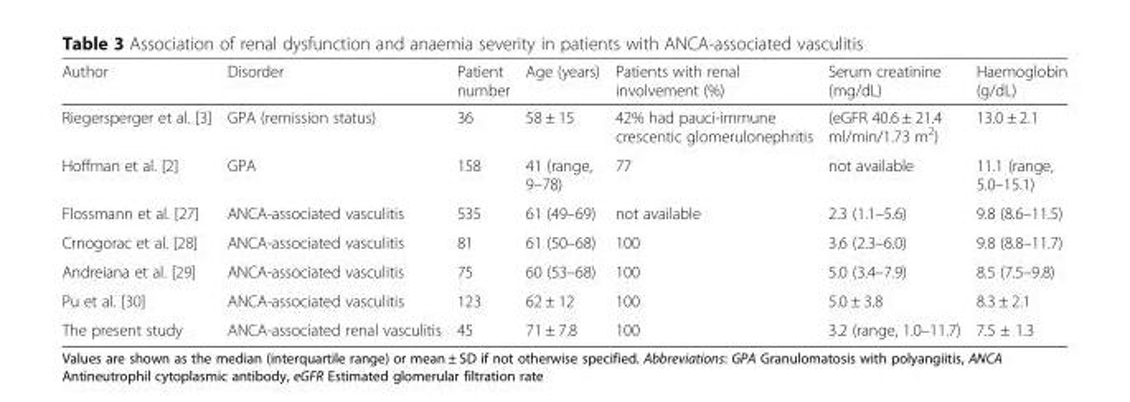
<table><thead><tr><td>Author</td><td>Disorder</td><td>Patient number</td><td>Age (years)</td><td>Patients with renal involvement (%)</td><td>Serum creatinine (mg/dL)</td><td>Haemoglobin (g/dL)</td></tr></thead><tbody><tr><td>Riegersperger et al. [3]</td><td>GPA (remission status)</td><td>36</td><td>58 ± 15</td><td>42% had pauci-immune crescentic glomerulonephritis</td><td>(eGFR 40.6 ± 21.4 ml/min/1.73 m<sup>2</sup>)</td><td>13.0 ± 2.1</td></tr><tr><td>Hoffman et al. [2]</td><td>GPA</td><td>158</td><td>41 (range, 9–78)</td><td>77</td><td>not available</td><td>11.1 (range, 5.0–15.1)</td></tr><tr><td>Flossmann et al. [27]</td><td>ANCA-associated vasculitis</td><td>535</td><td>61 (49–69)</td><td>not available</td><td>2.3 (1.1–5.6)</td><td>9.8 (8.6–11.5)</td></tr><tr><td>Crnogorac et al. [28]</td><td>ANCA-associated vasculitis</td><td>81</td><td>61 (50–68)</td><td>100</td><td>3.6 (2.3–6.0)</td><td>9.8 (8.8–11.7)</td></tr><tr><td>Andreiana et al. [29]</td><td>ANCA-associated vasculitis</td><td>75</td><td>60 (53–68)</td><td>100</td><td>5.0 (3.4–7.9)</td><td>8.5 (7.5–9.8)</td></tr><tr><td>Pu et al. [30]</td><td>ANCA-associated vasculitis</td><td>123</td><td>62 ± 12</td><td>100</td><td>5.0 ± 3.8</td><td>8.3 ± 2.1</td></tr><tr><td>The present study</td><td>ANCA-associated renal vasculitis</td><td>45</td><td>71 ± 7.8</td><td>100</td><td>3.2 (range, 1.0–11.7)</td><td>7.5 ± 1.3</td></tr></tbody></table>